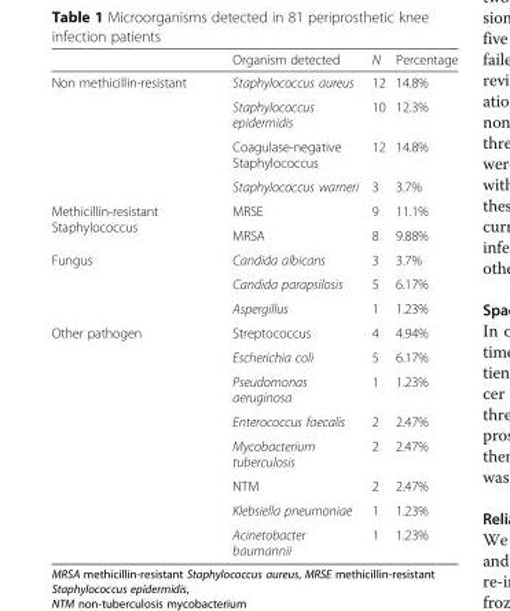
<table><thead><tr><td></td><td>Organism detected</td><td>N</td><td>Percentage</td></tr></thead><tbody><tr><td rowspan="4">Non methicillin-resistant</td><td>Staphylococcus aureus</td><td>12</td><td>14.8%</td></tr><tr><td>Staphylococcus epidermidis</td><td>10</td><td>12.3%</td></tr><tr><td>Coagulase-negative Staphylococcus</td><td>12</td><td>14.8%</td></tr><tr><td>Staphylococcus warneri</td><td>3</td><td>3.7%</td></tr><tr><td rowspan="2">Methicillin-resistant Staphylococcus</td><td>MRSE</td><td>9</td><td>11.1%</td></tr><tr><td>MRSA</td><td>8</td><td>9.88%</td></tr><tr><td rowspan="3">Fungus</td><td>Candida albicans</td><td>3</td><td>3.7%</td></tr><tr><td>Candida parapsilosis</td><td>5</td><td>6.17%</td></tr><tr><td>Aspergillus</td><td>1</td><td>1.23%</td></tr><tr><td rowspan="8">Other pathogen</td><td>Streptococcus</td><td>4</td><td>4.94%</td></tr><tr><td>Escherichia coli</td><td>5</td><td>6.17%</td></tr><tr><td>Pseudomonas aeruginosa</td><td>1</td><td>1.23%</td></tr><tr><td>Enterococcus faecalis</td><td>2</td><td>2.47%</td></tr><tr><td>Mycobacterium tuberculosis</td><td>2</td><td>2.47%</td></tr><tr><td>NTM</td><td>2</td><td>2.47%</td></tr><tr><td>Klebsiella pneumoniae</td><td>1</td><td>1.23%</td></tr><tr><td>Acinetobacter baumannii</td><td>1</td><td>1.23%</td></tr></tbody></table>